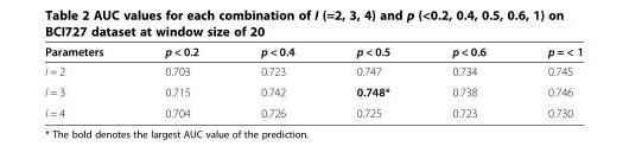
<table><thead><tr><td>Parameters</td><td>p &lt; 0.2</td><td>p &lt; 0.4</td><td>p &lt; 0.5</td><td>p &lt; 0.6</td><td>p = &lt; 1</td></tr></thead><tbody><tr><td>I = 2</td><td>0.703</td><td>0.723</td><td>0.747</td><td>0.734</td><td>0.745</td></tr><tr><td>I = 3</td><td>0.715</td><td>0.742</td><td>0.748*</td><td>0.738</td><td>0.746</td></tr><tr><td>I = 4</td><td>0.704</td><td>0.726</td><td>0.725</td><td>0.723</td><td>0.730</td></tr></tbody></table>